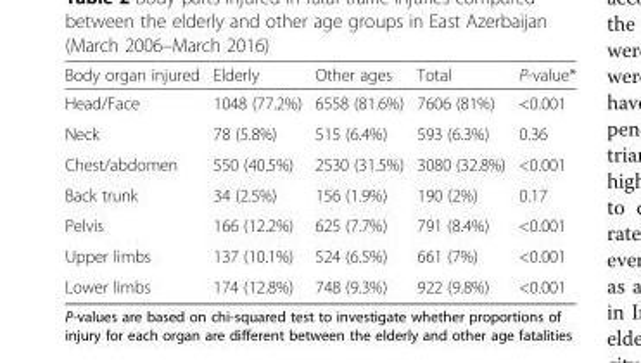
<table><thead><tr><td>Body organ injured</td><td>Elderly</td><td>Other ages</td><td>Total</td><td>P-value*</td></tr></thead><tbody><tr><td>Head/Face</td><td>1048 (77.2%)</td><td>6558 (81.6%)</td><td>7606 (81%)</td><td>&lt;0.001</td></tr><tr><td>Neck</td><td>78 (5.8%)</td><td>515 (6.4%)</td><td>593 (6.3%)</td><td>0.36</td></tr><tr><td>Chest/abdomen</td><td>550 (40.5%)</td><td>2530 (31.5%)</td><td>3080 (32.8%)</td><td>&lt;0.001</td></tr><tr><td>Back trunk</td><td>34 (2.5%)</td><td>156 (1.9%)</td><td>190 (2%)</td><td>0.17</td></tr><tr><td>Pelvis</td><td>166 (12.2%)</td><td>625 (7.7%)</td><td>791 (8.4%)</td><td>&lt;0.001</td></tr><tr><td>Upper limbs</td><td>137 (10.1%)</td><td>524 (6.5%)</td><td>661 (7%)</td><td>&lt;0.001</td></tr><tr><td>Lower limbs</td><td>174 (12.8%)</td><td>748 (9.3%)</td><td>922 (9.8%)</td><td>&lt;0.001</td></tr></tbody></table>